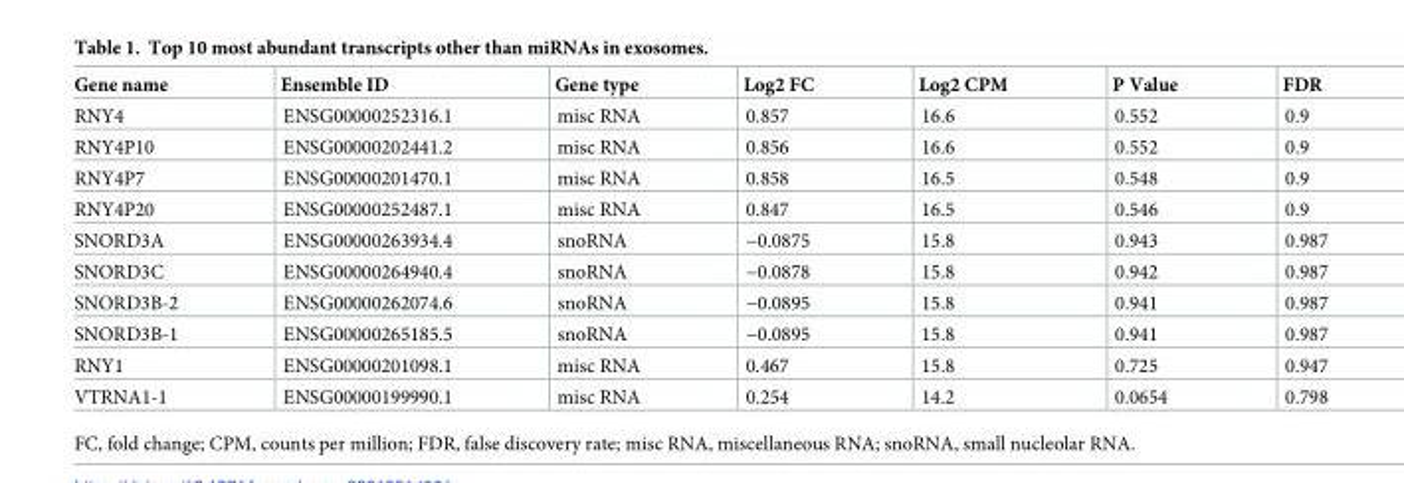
<table><thead><tr><td>Gene name</td><td>Ensemble ID</td><td>Gene type</td><td>Log2 FC</td><td>Log2 CPM</td><td>P Value</td><td>FDR</td></tr></thead><tbody><tr><td>RNY4</td><td>ENSG00000252316.1</td><td>misc RNA</td><td>0.857</td><td>16.6</td><td>0.552</td><td>0.9</td></tr><tr><td>RNY4P10</td><td>ENSG00000202441.2</td><td>misc RNA</td><td>0.856</td><td>16.6</td><td>0.552</td><td>0.9</td></tr><tr><td>RNY4P7</td><td>ENSG00000201470.1</td><td>misc RNA</td><td>0.858</td><td>16.5</td><td>0.548</td><td>0.9</td></tr><tr><td>RNY4P20</td><td>ENSG00000252487.1</td><td>misc RNA</td><td>0.847</td><td>16.5</td><td>0.546</td><td>0.9</td></tr><tr><td>SNORD3A</td><td>ENSG00000263934.4</td><td>snoRNA</td><td>−0.0875</td><td>15.8</td><td>0.943</td><td>0.987</td></tr><tr><td>SNORD3C</td><td>ENSG00000264940.4</td><td>snoRNA</td><td>−0.0878</td><td>15.8</td><td>0.942</td><td>0.987</td></tr><tr><td>SNORD3B-2</td><td>ENSG00000262074.6</td><td>snoRNA</td><td>−0.0895</td><td>15.8</td><td>0.941</td><td>0.987</td></tr><tr><td>SNORD3B-1</td><td>ENSG00000265185.5</td><td>snoRNA</td><td>−0.0895</td><td>15.8</td><td>0.941</td><td>0.987</td></tr><tr><td>RNY1</td><td>ENSG00000201098.1</td><td>misc RNA</td><td>0.467</td><td>15.8</td><td>0.725</td><td>0.947</td></tr><tr><td>VTRNA1-1</td><td>ENSG00000199990.1</td><td>misc RNA</td><td>0.254</td><td>14.2</td><td>0.0654</td><td>0.798</td></tr></tbody></table>